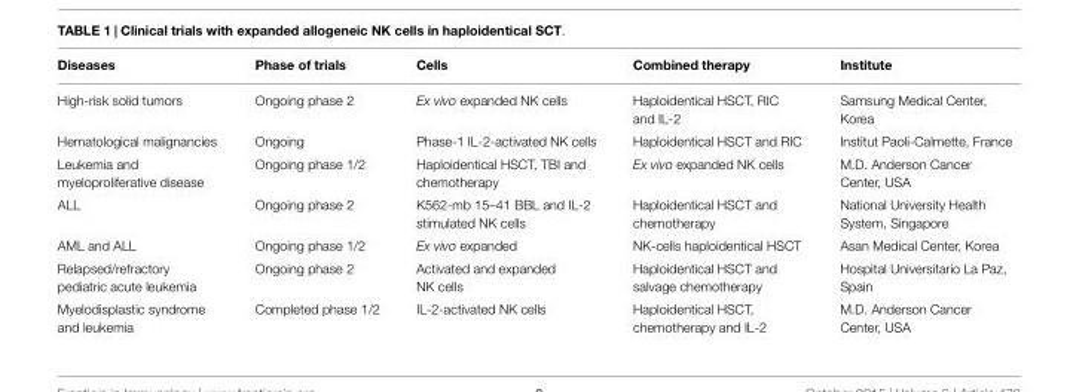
<table><thead><tr><td>Diseases</td><td>Phase of trials</td><td>Cells</td><td>Combined therapy</td><td>Institute</td></tr></thead><tbody><tr><td>High-risk solid tumors</td><td>Ongoing phase 2</td><td>Ex vivo expanded NK cells</td><td>Haploidentical HSCT, RIC and IL-2</td><td>Samsung Medical Center, Korea</td></tr><tr><td>Hematological malignancies</td><td>Ongoing</td><td>Phase-1 IL-2-activated NK cells</td><td>Haploidentical HSCT and RIC</td><td>Institut Paoli-Calmette, France</td></tr><tr><td>Leukemia and myeloproliferative disease</td><td>Ongoing phase 1/2</td><td>Haploidentical HSCT, TBI and chemotherapy</td><td>Ex vivo expanded NK cells</td><td>M.D. Anderson Cancer Center, USA</td></tr><tr><td>ALL</td><td>Ongoing phase 2</td><td>K562-mb 15–41 BBL and IL-2 stimulated NK cells</td><td>Haploidentical HSCT and chemotherapy</td><td>National University Health System, Singapore</td></tr><tr><td>AML and ALL</td><td>Ongoing phase 1/2</td><td>Ex vivo expanded</td><td>NK-cells haploidentical HSCT</td><td>Asan Medical Center, Korea</td></tr><tr><td>Relapsed/refractory pediatric acute leukemia</td><td>Ongoing phase 2</td><td>Activated and expanded NK cells</td><td>Haploidentical HSCT and salvage chemotherapy</td><td>Hospital Universitario La Paz, Spain</td></tr><tr><td>Myelodisplastic syndrome and leukemia</td><td>Completed phase 1/2</td><td>IL-2-activated NK cells</td><td>Haploidentical HSCT, chemotherapy and IL-2</td><td>M.D. Anderson Cancer Center, USA</td></tr></tbody></table>